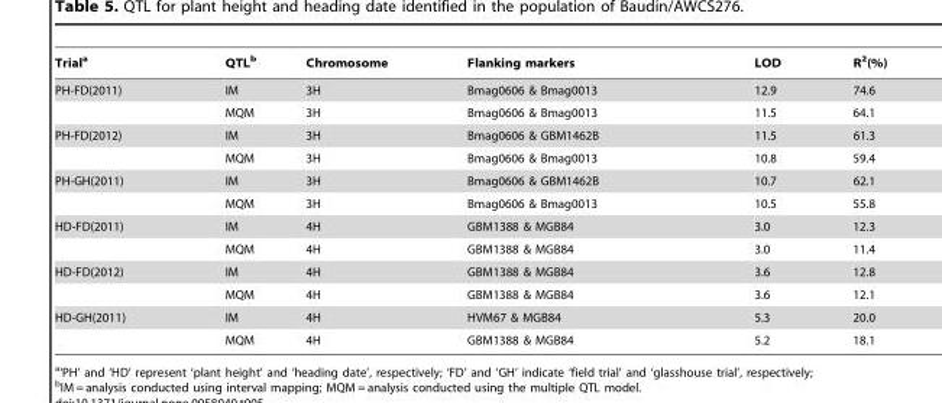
<table><thead><tr><td>Trial<sup>a</sup></td><td>QTL<sup>b</sup></td><td>Chromosome</td><td>Flanking markers</td><td>LOD</td><td>R<sup>2</sup>(%)</td></tr></thead><tbody><tr><td rowspan="2">PH-FD(2011)</td><td>IM</td><td>3H</td><td>Bmag0606 &amp; Bmag0013</td><td>12.9</td><td>74.6</td></tr><tr><td>MQM</td><td>3H</td><td>Bmag0606 &amp; Bmag0013</td><td>11.5</td><td>64.1</td></tr><tr><td rowspan="2">PH-FD(2012)</td><td>IM</td><td>3H</td><td>Bmag0606 &amp; GBM1462B</td><td>11.5</td><td>61.3</td></tr><tr><td>MQM</td><td>3H</td><td>Bmag0606 &amp; Bmag0013</td><td>10.8</td><td>59.4</td></tr><tr><td rowspan="2">PH-GH(2011)</td><td>IM</td><td>3H</td><td>Bmag0606 &amp; GBM1462B</td><td>10.7</td><td>62.1</td></tr><tr><td>MQM</td><td>3H</td><td>Bmag0606 &amp; Bmag0013</td><td>10.5</td><td>55.8</td></tr><tr><td rowspan="2">HD-FD(2011)</td><td>IM</td><td>4H</td><td>GBM1388 &amp; MGB84</td><td>3.0</td><td>12.3</td></tr><tr><td>MQM</td><td>4H</td><td>GBM1388 &amp; MGB84</td><td>3.0</td><td>11.4</td></tr><tr><td rowspan="2">HD-FD(2012)</td><td>IM</td><td>4H</td><td>GBM1388 &amp; MGB84</td><td>3.6</td><td>12.8</td></tr><tr><td>MQM</td><td>4H</td><td>GBM1388 &amp; MGB84</td><td>3.6</td><td>12.1</td></tr><tr><td rowspan="2">HD-GH(2011)</td><td>IM</td><td>4H</td><td>HVM67 &amp; MGB84</td><td>5.3</td><td>20.0</td></tr><tr><td>MQM</td><td>4H</td><td>GBM1388 &amp; MGB84</td><td>5.2</td><td>18.1</td></tr></tbody></table>